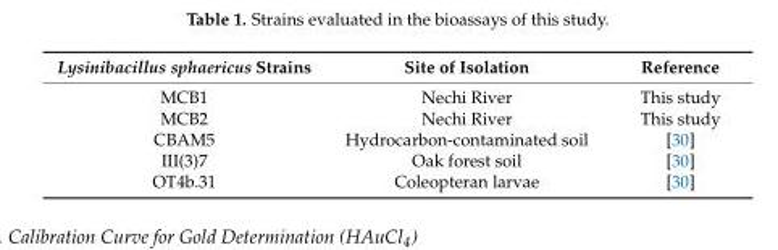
<table><thead><tr><td>Lysinibacillus sphaericus Strains</td><td>Site of Isolation</td><td>Reference</td></tr></thead><tbody><tr><td>MCB1</td><td>Nechi River</td><td>This study</td></tr><tr><td>MCB2</td><td>Nechi River</td><td>This study</td></tr><tr><td>CBAM5</td><td>Hydrocarbon-contaminated soil</td><td>[30]</td></tr><tr><td>III(3)7</td><td>Oak forest soil</td><td>[30]</td></tr><tr><td>OT4b.31</td><td>Coleopteran larvae</td><td>[30]</td></tr></tbody></table>